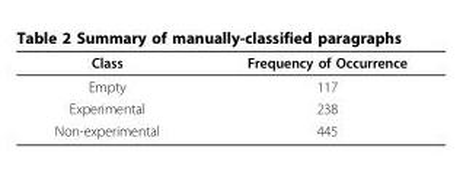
<table><thead><tr><td>Class</td><td>Frequency of Occurrence</td></tr></thead><tbody><tr><td>Empty</td><td>117</td></tr><tr><td>Experimental</td><td>238</td></tr><tr><td>Non-experimental</td><td>445</td></tr></tbody></table>